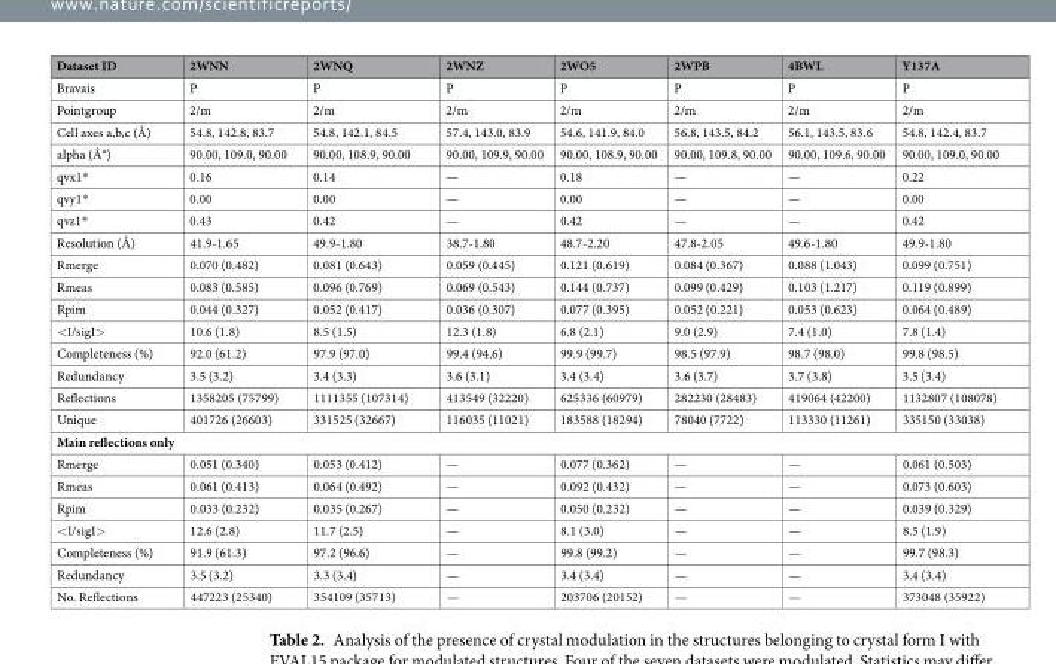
<table><thead><tr><td>Dataset ID</td><td>2WNN</td><td>2WNQ</td><td>2WNZ</td><td>2WO5</td><td>2WPB</td><td>4BWL</td><td>Y137A</td></tr></thead><tbody><tr><td>Bravais</td><td>P</td><td>P</td><td>P</td><td>P</td><td>P</td><td>P</td><td>P</td></tr><tr><td>Pointgroup</td><td>2/m</td><td>2/m</td><td>2/m</td><td>2/m</td><td>2/m</td><td>2/m</td><td>2/m</td></tr><tr><td>Cell axes a,b,c (Å)</td><td>54.8, 142.8, 83.7</td><td>54.8, 142.1, 84.5</td><td>57.4, 143.0, 83.9</td><td>54.6, 141.9, 84.0</td><td>56.8, 143.5, 84.2</td><td>56.1, 143.5, 83.6</td><td>54.8, 142.4, 83.7</td></tr><tr><td>alpha (Â°)</td><td>90.00, 109.0, 90.00</td><td>90.00, 108.9, 90.00</td><td>90.00, 109.9, 90.00</td><td>90.00, 108.9, 90.00</td><td>90.00, 109.8, 90.00</td><td>90.00, 109.6, 90.00</td><td>90.00, 109.0, 90.00</td></tr><tr><td>qvx1*</td><td>0.16</td><td>0.14</td><td>—</td><td>0.18</td><td>—</td><td>—</td><td>0.22</td></tr><tr><td>qvy1*</td><td>0.00</td><td>0.00</td><td>—</td><td>0.00</td><td>—</td><td>—</td><td>0.00</td></tr><tr><td>qvz1*</td><td>0.43</td><td>0.42</td><td>—</td><td>0.42</td><td>—</td><td>—</td><td>0.42</td></tr><tr><td>Resolution (Å)</td><td>41.9-1.65</td><td>49.9-1.80</td><td>38.7-1.80</td><td>48.7-2.20</td><td>47.8-2.05</td><td>49.6-1.80</td><td>49.9-1.80</td></tr><tr><td>Rmerge</td><td>0.070 (0.482)</td><td>0.081 (0.643)</td><td>0.059 (0.445)</td><td>0.121 (0.619)</td><td>0.084 (0.367)</td><td>0.088 (1.043)</td><td>0.099 (0.751)</td></tr><tr><td>Rmeas</td><td>0.083 (0.585)</td><td>0.096 (0.769)</td><td>0.069 (0.543)</td><td>0.144 (0.737)</td><td>0.099 (0.429)</td><td>0.103 (1.217)</td><td>0.119 (0.899)</td></tr><tr><td>Rpim</td><td>0.044 (0.327)</td><td>0.052 (0.417)</td><td>0.036 (0.307)</td><td>0.077 (0.395)</td><td>0.052 (0.221)</td><td>0.053 (0.623)</td><td>0.064 (0.489)</td></tr><tr><td>&lt;I/sigI&gt;</td><td>10.6 (1.8)</td><td>8.5 (1.5)</td><td>12.3 (1.8)</td><td>6.8 (2.1)</td><td>9.0 (2.9)</td><td>7.4 (1.0)</td><td>7.8 (1.4)</td></tr><tr><td>Completeness (%)</td><td>92.0 (61.2)</td><td>97.9 (97.0)</td><td>99.4 (94.6)</td><td>99.9 (99.7)</td><td>98.5 (97.9)</td><td>98.7 (98.0)</td><td>99.8 (98.5)</td></tr><tr><td>Redundancy</td><td>3.5 (3.2)</td><td>3.4 (3.3)</td><td>3.6 (3.1)</td><td>3.4 (3.4)</td><td>3.6 (3.7)</td><td>3.7 (3.8)</td><td>3.5 (3.4)</td></tr><tr><td>Reflections</td><td>1358205 (75799)</td><td>1111355 (107314)</td><td>413549 (32220)</td><td>625336 (60979)</td><td>282230 (28483)</td><td>419064 (42200)</td><td>1132807 (108078)</td></tr><tr><td>Unique</td><td>401726 (26603)</td><td>331525 (32667)</td><td>116035 (11021)</td><td>183588 (18294)</td><td>78040 (7722)</td><td>113330 (11261)</td><td>335150 (33038)</td></tr><tr><td colspan="8">Main reflections only</td></tr><tr><td>Rmerge</td><td>0.051 (0.340)</td><td>0.053 (0.412)</td><td>—</td><td>0.077 (0.362)</td><td>—</td><td>—</td><td>0.061 (0.503)</td></tr><tr><td>Rmeas</td><td>0.061 (0.413)</td><td>0.064 (0.492)</td><td>—</td><td>0.092 (0.432)</td><td>—</td><td>—</td><td>0.073 (0.603)</td></tr><tr><td>Rpim</td><td>0.033 (0.232)</td><td>0.035 (0.267)</td><td>—</td><td>0.050 (0.232)</td><td>—</td><td>—</td><td>0.039 (0.329)</td></tr><tr><td>&lt;I/sigI&gt;</td><td>12.6 (2.8)</td><td>11.7 (2.5)</td><td>—</td><td>8.1 (3.0)</td><td>—</td><td>—</td><td>8.5 (1.9)</td></tr><tr><td>Completeness (%)</td><td>91.9 (61.3)</td><td>97.2 (96.6)</td><td>—</td><td>99.8 (99.2)</td><td>—</td><td>—</td><td>99.7 (98.3)</td></tr><tr><td>Redundancy</td><td>3.5 (3.2)</td><td>3.3 (3.4)</td><td>—</td><td>3.4 (3.4)</td><td>—</td><td>—</td><td>3.4 (3.4)</td></tr><tr><td>No. Reflections</td><td>447223 (25340)</td><td>354109 (35713)</td><td>—</td><td>203706 (20152)</td><td>—</td><td>—</td><td>373048 (35922)</td></tr></tbody></table>